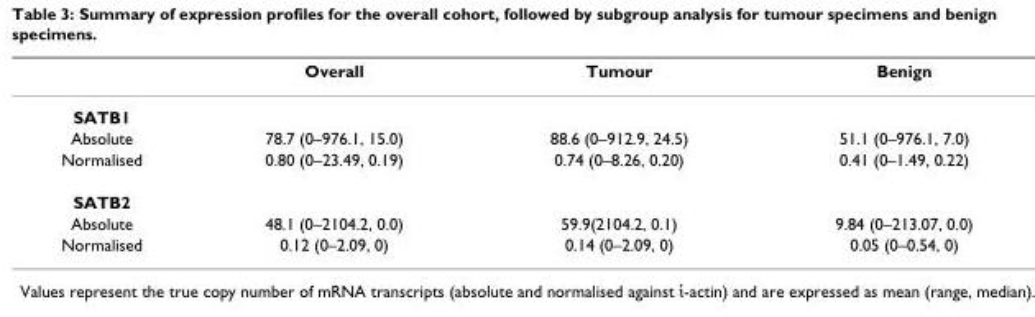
<table><thead><tr><td></td><td>Overall</td><td>Tumour</td><td>Benign</td></tr></thead><tbody><tr><td colspan="4">SATB1</td></tr><tr><td>Absolute</td><td>78.7 (0–976.1, 15.0)</td><td>88.6 (0–912.9, 24.5)</td><td>51.1 (0–976.1, 7.0)</td></tr><tr><td>Normalised</td><td>0.80 (0–23.49, 0.19)</td><td>0.74 (0–8.26, 0.20)</td><td>0.41 (0–1.49, 0.22)</td></tr><tr><td colspan="4">SATB2</td></tr><tr><td>Absolute</td><td>48.1 (0–2104.2, 0.0)</td><td>59.9(2104.2, 0.1)</td><td>9.84 (0–213.07, 0.0)</td></tr><tr><td>Normalised</td><td>0.12 (0–2.09, 0)</td><td>0.14 (0–2.09, 0)</td><td>0.05 (0–0.54, 0)</td></tr></tbody></table>